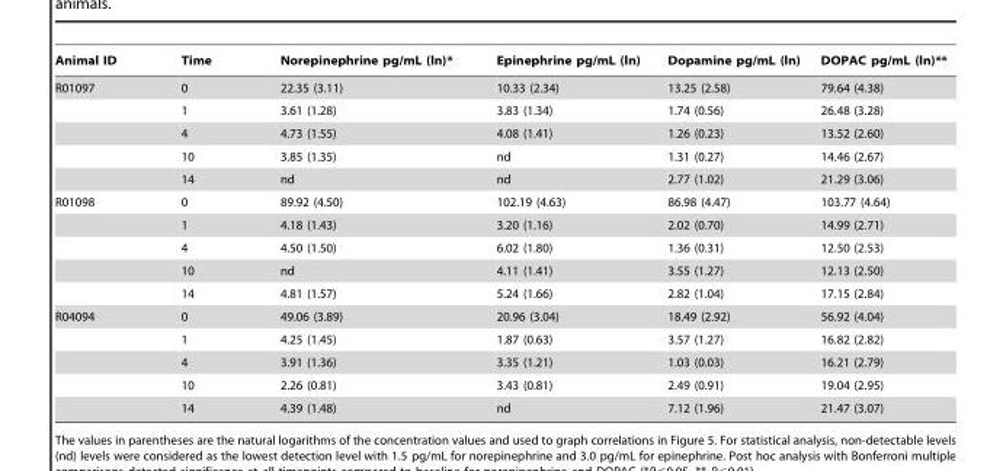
<table><thead><tr><td>Animal ID</td><td>Time</td><td>Norepinephrine pg/mL (ln)*</td><td>Epinephrine pg/mL (ln)</td><td>Dopamine pg/mL (ln)</td><td>DOPAC pg/mL (ln)**</td></tr></thead><tbody><tr><td rowspan="5">R01097</td><td>0</td><td>22.35 (3.11)</td><td>10.33 (2.34)</td><td>13.25 (2.58)</td><td>79.64 (4.38)</td></tr><tr><td>1</td><td>3.61 (1.28)</td><td>3.83 (1.34)</td><td>1.74 (0.56)</td><td>26.48 (3.28)</td></tr><tr><td>4</td><td>4.73 (1.55)</td><td>4.08 (1.41)</td><td>1.26 (0.23)</td><td>13.52 (2.60)</td></tr><tr><td>10</td><td>3.85 (1.35)</td><td>nd</td><td>1.31 (0.27)</td><td>14.46 (2.67)</td></tr><tr><td>14</td><td>nd</td><td>nd</td><td>2.77 (1.02)</td><td>21.29 (3.06)</td></tr><tr><td rowspan="5">R01098</td><td>0</td><td>89.92 (4.50)</td><td>102.19 (4.63)</td><td>86.98 (4.47)</td><td>103.77 (4.64)</td></tr><tr><td>1</td><td>4.18 (1.43)</td><td>3.20 (1.16)</td><td>2.02 (0.70)</td><td>14.99 (2.71)</td></tr><tr><td>4</td><td>4.50 (1.50)</td><td>6.02 (1.80)</td><td>1.36 (0.31)</td><td>12.50 (2.53)</td></tr><tr><td>10</td><td>nd</td><td>4.11 (1.41)</td><td>3.55 (1.27)</td><td>12.13 (2.50)</td></tr><tr><td>14</td><td>4.81 (1.57)</td><td>5.24 (1.66)</td><td>2.82 (1.04)</td><td>17.15 (2.84)</td></tr><tr><td rowspan="5">R04094</td><td>0</td><td>49.06 (3.89)</td><td>20.96 (3.04)</td><td>18.49 (2.92)</td><td>56.92 (4.04)</td></tr><tr><td>1</td><td>4.25 (1.45)</td><td>1.87 (0.63)</td><td>3.57 (1.27)</td><td>16.82 (2.82)</td></tr><tr><td>4</td><td>3.91 (1.36)</td><td>3.35 (1.21)</td><td>1.03 (0.03)</td><td>16.21 (2.79)</td></tr><tr><td>10</td><td>2.26 (0.81)</td><td>3.43 (0.81)</td><td>2.49 (0.91)</td><td>19.04 (2.95)</td></tr><tr><td>14</td><td>4.39 (1.48)</td><td>nd</td><td>7.12 (1.96)</td><td>21.47 (3.07)</td></tr></tbody></table>